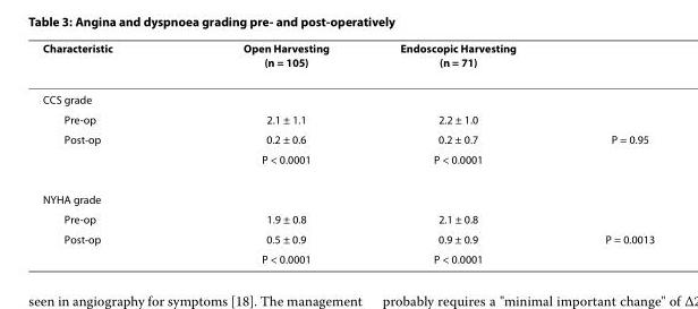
<table><thead><tr><td>Characteristic</td><td>Open Harvesting (n = 105)</td><td>Endoscopic Harvesting (n = 71)</td><td></td></tr></thead><tbody><tr><td colspan="4">CCS grade</td></tr><tr><td>Pre-op</td><td>2.1 ± 1.1</td><td>2.2 ± 1.0</td><td></td></tr><tr><td rowspan="2">Post-op</td><td>0.2 ± 0.6</td><td>0.2 ± 0.7</td><td>P = 0.95</td></tr><tr><td>P &lt; 0.0001</td><td>P &lt; 0.0001</td><td></td></tr><tr><td colspan="4">NYHA grade</td></tr><tr><td>Pre-op</td><td>1.9 ± 0.8</td><td>2.1 ± 0.8</td><td></td></tr><tr><td rowspan="2">Post-op</td><td>0.5 ± 0.9</td><td>0.9 ± 0.9</td><td>P = 0.0013</td></tr><tr><td>P &lt; 0.0001</td><td>P &lt; 0.0001</td><td></td></tr></tbody></table>